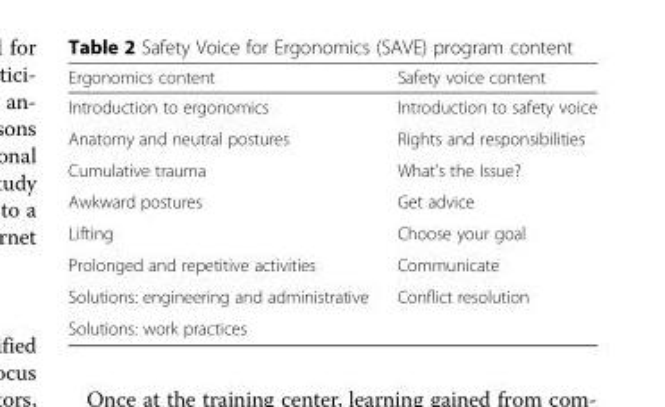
<table><thead><tr><td>Ergonomics content</td><td>Safety voice content</td></tr></thead><tbody><tr><td>Introduction to ergonomics</td><td>Introduction to safety voice</td></tr><tr><td>Anatomy and neutral postures</td><td>Rights and responsibilities</td></tr><tr><td>Cumulative trauma</td><td>What’s the Issue?</td></tr><tr><td>Awkward postures</td><td>Get advice</td></tr><tr><td>Lifting</td><td>Choose your goal</td></tr><tr><td>Prolonged and repetitive activities</td><td>Communicate</td></tr><tr><td>Solutions: engineering and administrative</td><td>Conflict resolution</td></tr><tr><td>Solutions: work practices</td><td></td></tr></tbody></table>